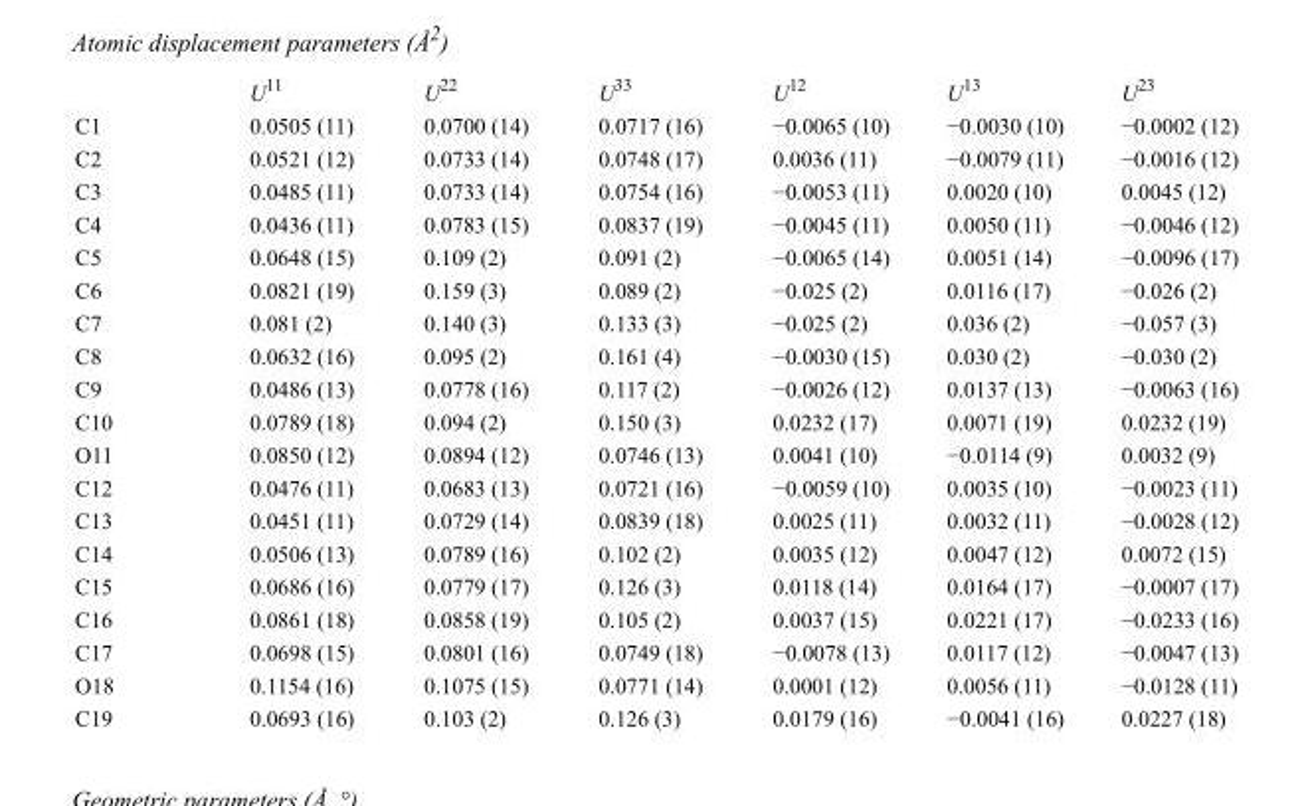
<table><thead><tr><td></td><td>U<sup>11</sup></td><td>U<sup>22</sup></td><td>U<sup>33</sup></td><td>U<sup>12</sup></td><td>U<sup>13</sup></td><td>U<sup>23</sup></td></tr></thead><tbody><tr><td>C1</td><td>0.0505 (11)</td><td>0.0700 (14)</td><td>0.0717 (16)</td><td>−0.0065 (10)</td><td>−0.0030 (10)</td><td>−0.0002 (12)</td></tr><tr><td>C2</td><td>0.0521 (12)</td><td>0.0733 (14)</td><td>0.0748 (17)</td><td>0.0036 (11)</td><td>−0.0079 (11)</td><td>−0.0016 (12)</td></tr><tr><td>C3</td><td>0.0485 (11)</td><td>0.0733 (14)</td><td>0.0754 (16)</td><td>−0.0053 (11)</td><td>0.0020 (10)</td><td>0.0045 (12)</td></tr><tr><td>C4</td><td>0.0436 (11)</td><td>0.0783 (15)</td><td>0.0837 (19)</td><td>−0.0045 (11)</td><td>0.0050 (11)</td><td>−0.0046 (12)</td></tr><tr><td>C5</td><td>0.0648 (15)</td><td>0.109 (2)</td><td>0.091 (2)</td><td>−0.0065 (14)</td><td>0.0051 (14)</td><td>−0.0096 (17)</td></tr><tr><td>C6</td><td>0.0821 (19)</td><td>0.159 (3)</td><td>0.089 (2)</td><td>−0.025 (2)</td><td>0.0116 (17)</td><td>−0.026 (2)</td></tr><tr><td>C7</td><td>0.081 (2)</td><td>0.140 (3)</td><td>0.133 (3)</td><td>−0.025 (2)</td><td>0.036 (2)</td><td>−0.057 (3)</td></tr><tr><td>C8</td><td>0.0632 (16)</td><td>0.095 (2)</td><td>0.161 (4)</td><td>−0.0030 (15)</td><td>0.030 (2)</td><td>−0.030 (2)</td></tr><tr><td>C9</td><td>0.0486 (13)</td><td>0.0778 (16)</td><td>0.117 (2)</td><td>−0.0026 (12)</td><td>0.0137 (13)</td><td>−0.0063 (16)</td></tr><tr><td>C10</td><td>0.0789 (18)</td><td>0.094 (2)</td><td>0.150 (3)</td><td>0.0232 (17)</td><td>0.0071 (19)</td><td>0.0232 (19)</td></tr><tr><td>O11</td><td>0.0850 (12)</td><td>0.0894 (12)</td><td>0.0746 (13)</td><td>0.0041 (10)</td><td>−0.0114 (9)</td><td>0.0032 (9)</td></tr><tr><td>C12</td><td>0.0476 (11)</td><td>0.0683 (13)</td><td>0.0721 (16)</td><td>−0.0059 (10)</td><td>0.0035 (10)</td><td>−0.0023 (11)</td></tr><tr><td>C13</td><td>0.0451 (11)</td><td>0.0729 (14)</td><td>0.0839 (18)</td><td>0.0025 (11)</td><td>0.0032 (11)</td><td>−0.0028 (12)</td></tr><tr><td>C14</td><td>0.0506 (13)</td><td>0.0789 (16)</td><td>0.102 (2)</td><td>0.0035 (12)</td><td>0.0047 (12)</td><td>0.0072 (15)</td></tr><tr><td>C15</td><td>0.0686 (16)</td><td>0.0779 (17)</td><td>0.126 (3)</td><td>0.0118 (14)</td><td>0.0164 (17)</td><td>−0.0007 (17)</td></tr><tr><td>C16</td><td>0.0861 (18)</td><td>0.0858 (19)</td><td>0.105 (2)</td><td>0.0037 (15)</td><td>0.0221 (17)</td><td>−0.0233 (16)</td></tr><tr><td>C17</td><td>0.0698 (15)</td><td>0.0801 (16)</td><td>0.0749 (18)</td><td>−0.0078 (13)</td><td>0.0117 (12)</td><td>−0.0047 (13)</td></tr><tr><td>O18</td><td>0.1154 (16)</td><td>0.1075 (15)</td><td>0.0771 (14)</td><td>0.0001 (12)</td><td>0.0056 (11)</td><td>−0.0128 (11)</td></tr><tr><td>C19</td><td>0.0693 (16)</td><td>0.103 (2)</td><td>0.126 (3)</td><td>0.0179 (16)</td><td>−0.0041 (16)</td><td>0.0227 (18)</td></tr></tbody></table>